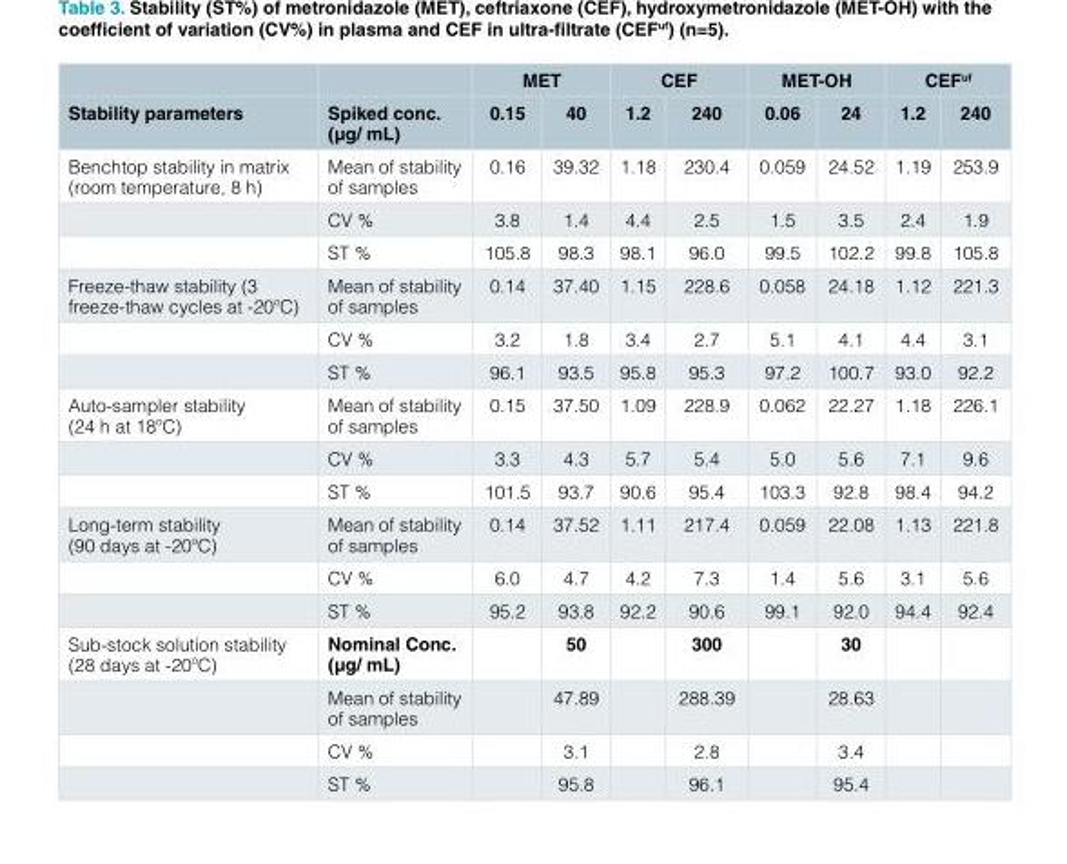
<table><thead><tr><td rowspan="2">Stability parameters</td><td rowspan="2">Spiked conc. (µg/ mL)</td><td colspan="2">MET</td><td colspan="2">CEF</td><td colspan="2">MET-OH</td><td colspan="2">CEF<sup>uf</sup></td></tr><tr><td>0.15</td><td>40</td><td>1.2</td><td>240</td><td>0.06</td><td>24</td><td>1.2</td><td>240</td></tr></thead><tbody><tr><td rowspan="3">Benchtop stability in matrix (room temperature, 8 h)</td><td>Mean of stability of samples</td><td>0.16</td><td>39.32</td><td>1.18</td><td>230.4</td><td>0.059</td><td>24.52</td><td>1.19</td><td>253.9</td></tr><tr><td>CV %</td><td>3.8</td><td>1.4</td><td>4.4</td><td>2.5</td><td>1.5</td><td>3.5</td><td>2.4</td><td>1.9</td></tr><tr><td>ST %</td><td>105.8</td><td>98.3</td><td>98.1</td><td>96.0</td><td>99.5</td><td>102.2</td><td>99.8</td><td>105.8</td></tr><tr><td rowspan="3">Freeze-thaw stability (3 freeze-thaw cycles at -20ºC)</td><td>Mean of stability of samples</td><td>0.14</td><td>37.40</td><td>1.15</td><td>228.6</td><td>0.058</td><td>24.18</td><td>1.12</td><td>221.3</td></tr><tr><td>CV %</td><td>3.2</td><td>1.8</td><td>3.4</td><td>2.7</td><td>5.1</td><td>4.1</td><td>4.4</td><td>3.1</td></tr><tr><td>ST %</td><td>96.1</td><td>93.5</td><td>95.8</td><td>95.3</td><td>97.2</td><td>100.7</td><td>93.0</td><td>92.2</td></tr><tr><td rowspan="3">Auto-sampler stability (24 h at 18ºC)</td><td>Mean of stability of samples</td><td>0.15</td><td>37.50</td><td>1.09</td><td>228.9</td><td>0.062</td><td>22.27</td><td>1.18</td><td>226.1</td></tr><tr><td>CV %</td><td>3.3</td><td>4.3</td><td>5.7</td><td>5.4</td><td>5.0</td><td>5.6</td><td>7.1</td><td>9.6</td></tr><tr><td>ST %</td><td>101.5</td><td>93.7</td><td>90.6</td><td>95.4</td><td>103.3</td><td>92.8</td><td>98.4</td><td>94.2</td></tr><tr><td rowspan="3">Long-term stability (90 days at -20ºC)</td><td>Mean of stability of samples</td><td>0.14</td><td>37.52</td><td>1.11</td><td>217.4</td><td>0.059</td><td>22.08</td><td>1.13</td><td>221.8</td></tr><tr><td>CV %</td><td>6.0</td><td>4.7</td><td>4.2</td><td>7.3</td><td>1.4</td><td>5.6</td><td>3.1</td><td>5.6</td></tr><tr><td>ST %</td><td>95.2</td><td>93.8</td><td>92.2</td><td>90.6</td><td>99.1</td><td>92.0</td><td>94.4</td><td>92.4</td></tr><tr><td rowspan="4">Sub-stock solution stability (28 days at -20ºC)</td><td>Nominal Conc. (µg/ mL)</td><td></td><td>50</td><td></td><td>300</td><td></td><td>30</td><td></td><td></td></tr><tr><td>Mean of stability of samples</td><td></td><td>47.89</td><td></td><td>288.39</td><td></td><td>28.63</td><td></td><td></td></tr><tr><td>CV %</td><td></td><td>3.1</td><td></td><td>2.8</td><td></td><td>3.4</td><td></td><td></td></tr><tr><td>ST %</td><td></td><td>95.8</td><td></td><td>96.1</td><td></td><td>95.4</td><td></td><td></td></tr></tbody></table>